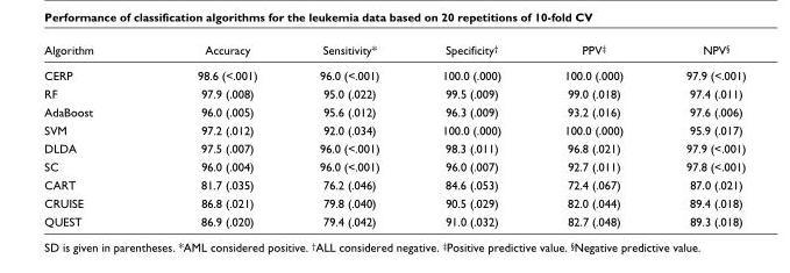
<table><thead><tr><td>Algorithm</td><td>Accuracy</td><td>Sensitivity*</td><td>Specificity†</td><td>PPV‡</td><td>NPV§</td></tr></thead><tbody><tr><td>CERP</td><td>98.6 (&lt;.001)</td><td>96.0 (&lt;.001)</td><td>100.0 (.000)</td><td>100.0 (.000)</td><td>97.9 (&lt;.001)</td></tr><tr><td>RF</td><td>97.9 (.008)</td><td>95.0 (.022)</td><td>99.5 (.009)</td><td>99.0 (.018)</td><td>97.4 (.011)</td></tr><tr><td>AdaBoost</td><td>96.0 (.005)</td><td>95.6 (.012)</td><td>96.3 (.009)</td><td>93.2 (.016)</td><td>97.6 (.006)</td></tr><tr><td>SVM</td><td>97.2 (.012)</td><td>92.0 (.034)</td><td>100.0 (.000)</td><td>100.0 (.000)</td><td>95.9 (.017)</td></tr><tr><td>DLDA</td><td>97.5 (.007)</td><td>96.0 (&lt;.001)</td><td>98.3 (.011)</td><td>96.8 (.021)</td><td>97.9 (&lt;.001)</td></tr><tr><td>SC</td><td>96.0 (.004)</td><td>96.0 (&lt;.001)</td><td>96.0 (.007)</td><td>92.7 (.011)</td><td>97.8 (&lt;.001)</td></tr><tr><td>CART</td><td>81.7 (.035)</td><td>76.2 (.046)</td><td>84.6 (.053)</td><td>72.4 (.067)</td><td>87.0 (.021)</td></tr><tr><td>CRUISE</td><td>86.8 (.021)</td><td>79.8 (.040)</td><td>90.5 (.029)</td><td>82.0 (.044)</td><td>89.4 (.018)</td></tr><tr><td>QUEST</td><td>86.9 (.020)</td><td>79.4 (.042)</td><td>91.0 (.032)</td><td>82.7 (.048)</td><td>89.3 (.018)</td></tr></tbody></table>